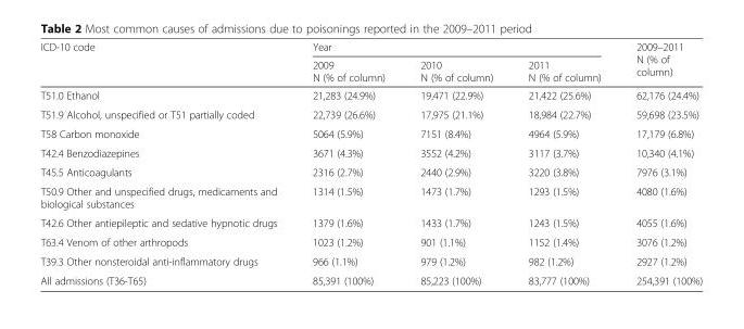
<table><thead><tr><td rowspan="2">ICD-10 code</td><td colspan="3">Year</td><td rowspan="2">2009–2011 N (% of column)</td></tr><tr><td>2009 N (% of column)</td><td>2010 N (% of column)</td><td>2011 N (% of column)</td></tr></thead><tbody><tr><td>T51.0 Ethanol</td><td>21,283 (24.9%)</td><td>19,471 (22.9%)</td><td>21,422 (25.6%)</td><td>62,176 (24.4%)</td></tr><tr><td>T51.9 Alcohol, unspecified or T51 partially coded</td><td>22,739 (26.6%)</td><td>17,975 (21.1%)</td><td>18,984 (22.7%)</td><td>59,698 (23.5%)</td></tr><tr><td>T58 Carbon monoxide</td><td>5064 (5.9%)</td><td>7151 (8.4%)</td><td>4964 (5.9%)</td><td>17,179 (6.8%)</td></tr><tr><td>T42.4 Benzodiazepines</td><td>3671 (4.3%)</td><td>3552 (4.2%)</td><td>3117 (3.7%)</td><td>10,340 (4.1%)</td></tr><tr><td>T45.5 Anticoagulants</td><td>2316 (2.7%)</td><td>2440 (2.9%)</td><td>3220 (3.8%)</td><td>7976 (3.1%)</td></tr><tr><td>T50.9 Other and unspecified drugs, medicaments and biological substances</td><td>1314 (1.5%)</td><td>1473 (1.7%)</td><td>1293 (1.5%)</td><td>4080 (1.6%)</td></tr><tr><td>T42.6 Other antiepileptic and sedative hypnotic drugs</td><td>1379 (1.6%)</td><td>1433 (1.7%)</td><td>1243 (1.5%)</td><td>4055 (1.6%)</td></tr><tr><td>T63.4 Venom of other arthropods</td><td>1023 (1.2%)</td><td>901 (1.1%)</td><td>1152 (1.4%)</td><td>3076 (1.2%)</td></tr><tr><td>T39.3 Other nonsteroidal anti-inflammatory drugs</td><td>966 (1.1%)</td><td>979 (1.2%)</td><td>982 (1.2%)</td><td>2927 (1.2%)</td></tr><tr><td>All admissions (T36-T65)</td><td>85,391 (100%)</td><td>85,223 (100%)</td><td>83,777 (100%)</td><td>254,391 (100%)</td></tr></tbody></table>